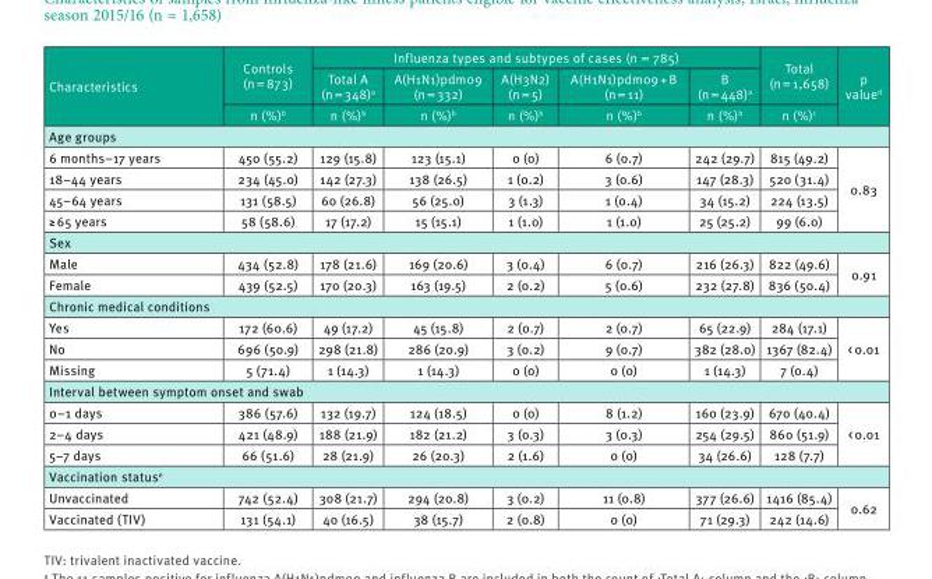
<table><thead><tr><td rowspan="3">Characteristics</td><td rowspan="3">Controls (n = 873) n (%)<sup>b</sup></td><td colspan="5">Influenza types and subtypes of cases (n = 785)</td><td rowspan="3">Total (n = 1,658) n (%)<sup>c</sup></td><td rowspan="3">p value<sup>d</sup></td></tr><tr><td rowspan="2">Total A (n = 348)<sup>a</sup> n (%)<sup>b</sup></td><td rowspan="2">A(H1N1)pdm09 (n = 332) n (%)<sup>b</sup></td><td rowspan="2">A(H3N2) (n = 5) n (%)<sup>b</sup></td><td rowspan="2">A(H1N1)pdm09 + B (n = 11) n (%)<sup>b</sup></td><td rowspan="2">B (n = 448)<sup>a</sup> n (%)<sup>b</sup></td></tr><tr></tr></thead><tbody><tr><td colspan="9">Age groups</td></tr><tr><td>6 months–17 years</td><td>450 (55.2)</td><td>129 (15.8)</td><td>123 (15.1)</td><td>0 (0)</td><td>6 (0.7)</td><td>242 (29.7)</td><td>815 (49.2)</td><td rowspan="4">0.83</td></tr><tr><td>18–44 years</td><td>234 (45.0)</td><td>142 (27.3)</td><td>138 (26.5)</td><td>1 (0.2)</td><td>3 (0.6)</td><td>147 (28.3)</td><td>520 (31.4)</td></tr><tr><td>45–64 years</td><td>131 (58.5)</td><td>60 (26.8)</td><td>56 (25.0)</td><td>3 (1.3)</td><td>1 (0.4)</td><td>34 (15.2)</td><td>224 (13.5)</td></tr><tr><td>≥ 65 years</td><td>58 (58.6)</td><td>17 (17.2)</td><td>15 (15.1)</td><td>1 (1.0)</td><td>1 (1.0)</td><td>25 (25.2)</td><td>99 (6.0)</td></tr><tr><td colspan="9">Sex</td></tr><tr><td>Male</td><td>434 (52.8)</td><td>178 (21.6)</td><td>169 (20.6)</td><td>3 (0.4)</td><td>6 (0.7)</td><td>216 (26.3)</td><td>822 (49.6)</td><td rowspan="2">0.91</td></tr><tr><td>Female</td><td>439 (52.5)</td><td>170 (20.3)</td><td>163 (19.5)</td><td>2 (0.2)</td><td>5 (0.6)</td><td>232 (27.8)</td><td>836 (50.4)</td></tr><tr><td colspan="9">Chronic medical conditions</td></tr><tr><td>Yes</td><td>172 (60.6)</td><td>49 (17.2)</td><td>45 (15.8)</td><td>2 (0.7)</td><td>2 (0.7)</td><td>65 (22.9)</td><td>284 (17.1)</td><td rowspan="3">&lt; 0.01</td></tr><tr><td>No</td><td>696 (50.9)</td><td>298 (21.8)</td><td>286 (20.9)</td><td>3 (0.2)</td><td>9 (0.7)</td><td>382 (28.0)</td><td>1367 (82.4)</td></tr><tr><td>Missing</td><td>5 (71.4)</td><td>1 (14.3)</td><td>1 (14.3)</td><td>0 (0)</td><td>0 (0)</td><td>1 (14.3)</td><td>7 (0.4)</td></tr><tr><td colspan="9">Interval between symptom onset and swab</td></tr><tr><td>0–1 days</td><td>386 (57.6)</td><td>132 (19.7)</td><td>124 (18.5)</td><td>0 (0)</td><td>8 (1.2)</td><td>160 (23.9)</td><td>670 (40.4)</td><td rowspan="3">&lt; 0.01</td></tr><tr><td>2–4 days</td><td>421 (48.9)</td><td>188 (21.9)</td><td>182 (21.2)</td><td>3 (0.3)</td><td>3 (0.3)</td><td>254 (29.5)</td><td>860 (51.9)</td></tr><tr><td>5–7 days</td><td>66 (51.6)</td><td>28 (21.9)</td><td>26 (20.3)</td><td>2 (1.6)</td><td>0 (0)</td><td>34 (26.6)</td><td>128 (7.7)</td></tr><tr><td colspan="9">Vaccination status<sup>e</sup></td></tr><tr><td>Unvaccinated</td><td>742 (52.4)</td><td>308 (21.7)</td><td>294 (20.8)</td><td>3 (0.2)</td><td>11 (0.8)</td><td>377 (26.6)</td><td>1416 (85.4)</td><td rowspan="2">0.62</td></tr><tr><td>Vaccinated (TIV)</td><td>131 (54.1)</td><td>40 (16.5)</td><td>38 (15.7)</td><td>2 (0.8)</td><td>0 (0)</td><td>71 (29.3)</td><td>242 (14.6)</td></tr></tbody></table>